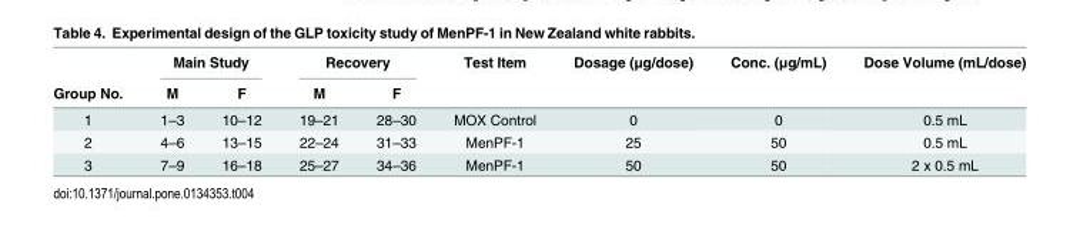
<table><thead><tr><td rowspan="2">Group No.</td><td colspan="2">Main Study</td><td colspan="2">Recovery</td><td rowspan="2">Test Item</td><td rowspan="2">Dosage (μg/dose)</td><td rowspan="2">Conc. (μg/mL)</td><td rowspan="2">Dose Volume (mL/dose)</td></tr><tr><td>M</td><td>F</td><td>M</td><td>F</td></tr></thead><tbody><tr><td>1</td><td>1–3</td><td>10–12</td><td>19–21</td><td>28–30</td><td>MOX Control</td><td>0</td><td>0</td><td>0.5 mL</td></tr><tr><td>2</td><td>4–6</td><td>13–15</td><td>22–24</td><td>31–33</td><td>MenPF-1</td><td>25</td><td>50</td><td>0.5 mL</td></tr><tr><td>3</td><td>7–9</td><td>16–18</td><td>25–27</td><td>34–36</td><td>MenPF-1</td><td>50</td><td>50</td><td>2 x 0.5 mL</td></tr></tbody></table>